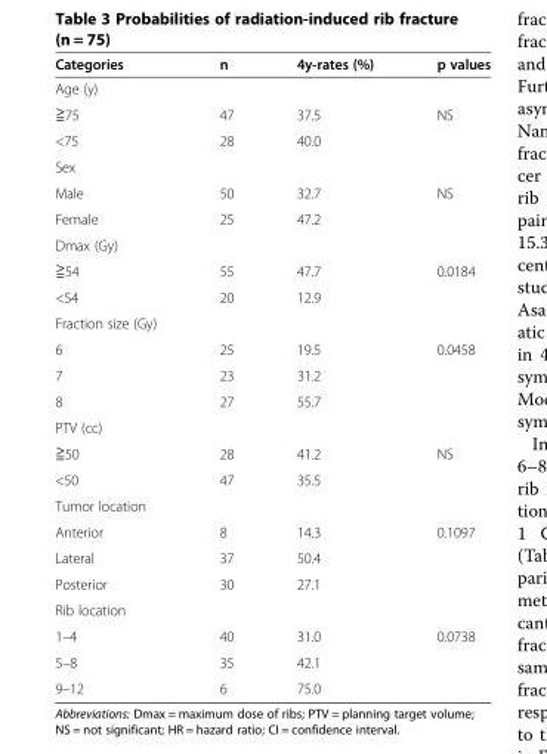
<table><thead><tr><td>Categories</td><td>n</td><td>4y-rates (%)</td><td>p values</td></tr></thead><tbody><tr><td colspan="4">Age (y)</td></tr><tr><td>≧75</td><td>47</td><td>37.5</td><td>NS</td></tr><tr><td>&lt;75</td><td>28</td><td>40.0</td><td></td></tr><tr><td colspan="4">Sex</td></tr><tr><td>Male</td><td>50</td><td>32.7</td><td>NS</td></tr><tr><td>Female</td><td>25</td><td>47.2</td><td></td></tr><tr><td colspan="4">Dmax (Gy)</td></tr><tr><td>≧54</td><td>55</td><td>47.7</td><td>0.0184</td></tr><tr><td>&lt;54</td><td>20</td><td>12.9</td><td></td></tr><tr><td colspan="4">Fraction size (Gy)</td></tr><tr><td>6</td><td>25</td><td>19.5</td><td>0.0458</td></tr><tr><td>7</td><td>23</td><td>31.2</td><td></td></tr><tr><td>8</td><td>27</td><td>55.7</td><td></td></tr><tr><td colspan="4">PTV (cc)</td></tr><tr><td>≧50</td><td>28</td><td>41.2</td><td>NS</td></tr><tr><td>&lt;50</td><td>47</td><td>35.5</td><td></td></tr><tr><td colspan="4">Tumor location</td></tr><tr><td>Anterior</td><td>8</td><td>14.3</td><td>0.1097</td></tr><tr><td>Lateral</td><td>37</td><td>50.4</td><td></td></tr><tr><td>Posterior</td><td>30</td><td>27.1</td><td></td></tr><tr><td colspan="4">Rib location</td></tr><tr><td>1–4</td><td>40</td><td>31.0</td><td>0.0738</td></tr><tr><td>5–8</td><td>35</td><td>42.1</td><td></td></tr><tr><td>9–12</td><td>6</td><td>75.0</td><td></td></tr></tbody></table>